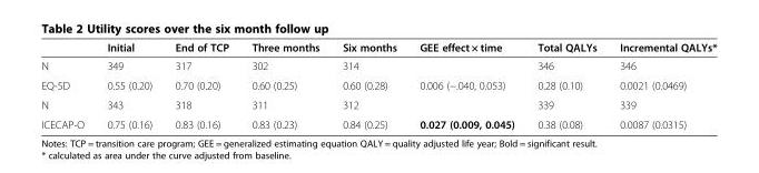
<table><thead><tr><td></td><td>Initial</td><td>End of TCP</td><td>Three months</td><td>Six months</td><td>GEE effect × time</td><td>Total QALYs</td><td>Incremental QALYs*</td></tr></thead><tbody><tr><td>N</td><td>349</td><td>317</td><td>302</td><td>314</td><td></td><td>346</td><td>346</td></tr><tr><td>EQ-5D</td><td>0.55 (0.20)</td><td>0.70 (0.20)</td><td>0.60 (0.25)</td><td>0.60 (0.28)</td><td>0.006 (−.040, 0.053)</td><td>0.28 (0.10)</td><td>0.0021 (0.0469)</td></tr><tr><td>N</td><td>343</td><td>318</td><td>311</td><td>312</td><td></td><td>339</td><td>339</td></tr><tr><td>ICECAP-O</td><td>0.75 (0.16)</td><td>0.83 (0.16)</td><td>0.83 (0.23)</td><td>0.84 (0.25)</td><td>0.027 (0.009, 0.045)</td><td>0.38 (0.08)</td><td>0.0087 (0.0315)</td></tr></tbody></table>